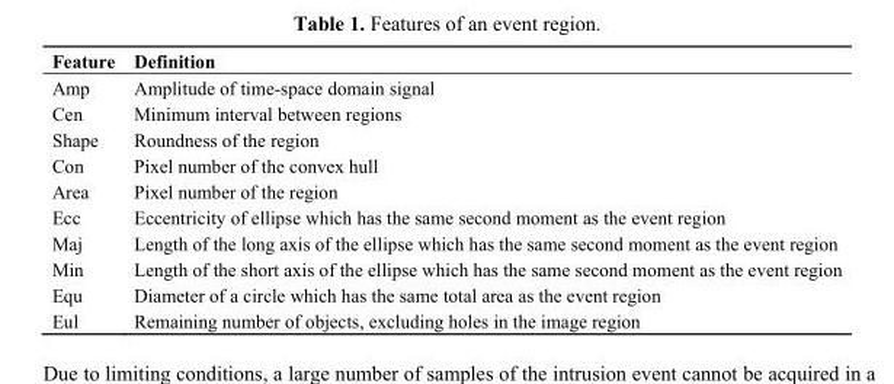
<table><thead><tr><td>Feature</td><td>Definition</td></tr></thead><tbody><tr><td>Amp</td><td>Amplitude of time-space domain signal</td></tr><tr><td>Cen</td><td>Minimum interval between regions</td></tr><tr><td>Shape</td><td>Roundness of the region</td></tr><tr><td>Con</td><td>Pixel number of the convex hull</td></tr><tr><td>Area</td><td>Pixel number of the region</td></tr><tr><td>Ecc</td><td>Eccentricity of ellipse which has the same second moment as the event region</td></tr><tr><td>Maj</td><td>Length of the long axis of the ellipse which has the same second moment as the event region</td></tr><tr><td>Min</td><td>Length of the short axis of the ellipse which has the same second moment as the event region</td></tr><tr><td>Equ</td><td>Diameter of a circle which has the same total area as the event region</td></tr><tr><td>Eul</td><td>Remaining number of objects, excluding holes in the image region</td></tr></tbody></table>